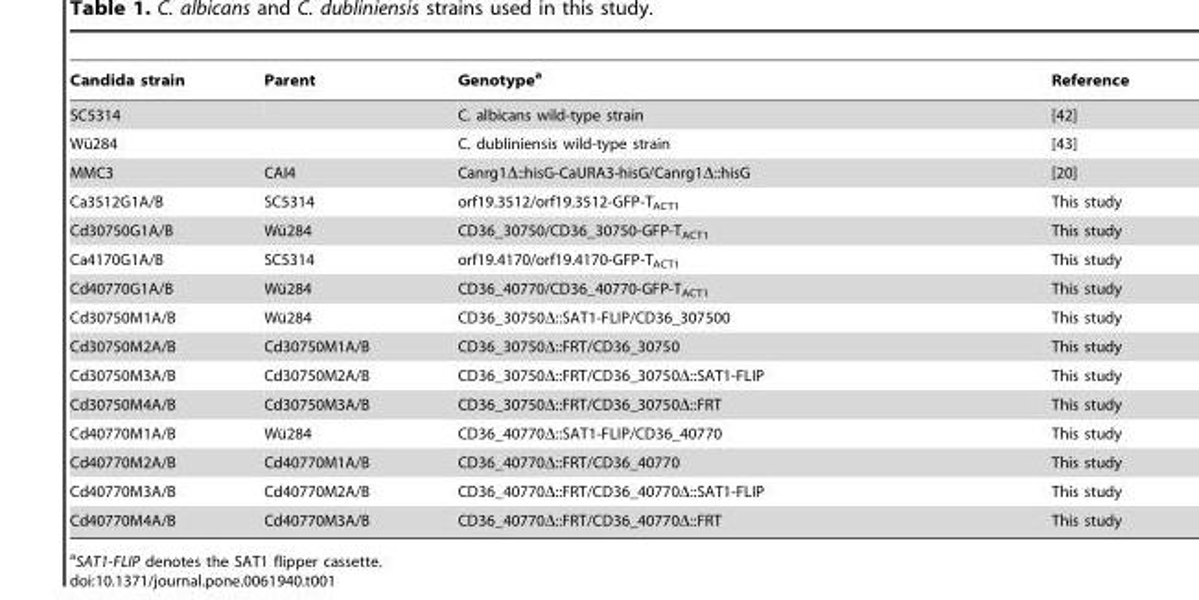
<table><thead><tr><td>Candida strain</td><td>Parent</td><td>Genotype<sup>a</sup></td><td>Reference</td></tr></thead><tbody><tr><td>SC5314</td><td></td><td>C. albicans wild-type strain</td><td>[42]</td></tr><tr><td>Wu¨284</td><td></td><td>C. dubliniensis wild-type strain</td><td>[43]</td></tr><tr><td>MMC3</td><td>CAI4</td><td>Canrg1Δ::hisG-CaURA3-hisG/Canrg1Δ::hisG</td><td>[20]</td></tr><tr><td>Ca3512G1A/B</td><td>SC5314</td><td>orf19.3512/orf19.3512-GFP-T<sub>ACT1</sub></td><td>This study</td></tr><tr><td>Cd30750G1A/B</td><td>Wu¨284</td><td>CD36_30750/CD36_30750-GFP-T<sub>ACT1</sub></td><td>This study</td></tr><tr><td>Ca4170G1A/B</td><td>SC5314</td><td>orf19.4170/orf19.4170-GFP-T<sub>ACT1</sub></td><td>This study</td></tr><tr><td>Cd40770G1A/B</td><td>Wu¨284</td><td>CD36_40770/CD36_40770-GFP-T<sub>ACT1</sub></td><td>This study</td></tr><tr><td>Cd30750M1A/B</td><td>Wu¨284</td><td>CD36_30750Δ::SAT1-FLIP/CD36_307500</td><td>This study</td></tr><tr><td>Cd30750M2A/B</td><td>Cd30750M1A/B</td><td>CD36_30750Δ::FRT/CD36_30750</td><td>This study</td></tr><tr><td>Cd30750M3A/B</td><td>Cd30750M2A/B</td><td>CD36_30750Δ::FRT/CD36_30750Δ::SAT1-FLIP</td><td>This study</td></tr><tr><td>Cd30750M4A/B</td><td>Cd30750M3A/B</td><td>CD36_30750Δ::FRT/CD36_30750Δ::FRT</td><td>This study</td></tr><tr><td>Cd40770M1A/B</td><td>Wu¨284</td><td>CD36_40770Δ::SAT1-FLIP/CD36_40770</td><td>This study</td></tr><tr><td>Cd40770M2A/B</td><td>Cd40770M1A/B</td><td>CD36_40770Δ::FRT/CD36_40770</td><td>This study</td></tr><tr><td>Cd40770M3A/B</td><td>Cd40770M2A/B</td><td>CD36_40770Δ::FRT/CD36_40770Δ::SAT1-FLIP</td><td>This study</td></tr><tr><td>Cd40770M4A/B</td><td>Cd40770M3A/B</td><td>CD36_40770Δ::FRT/CD36_40770Δ::FRT</td><td>This study</td></tr></tbody></table>